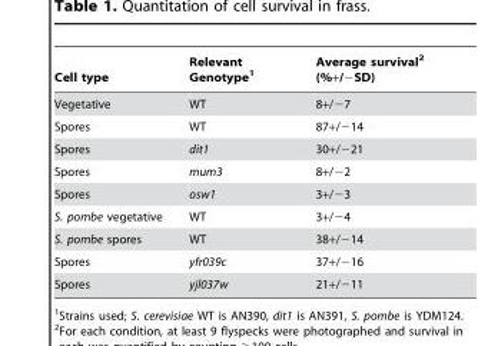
<table><thead><tr><td>Cell type</td><td>Relevant Genotype<sup>1</sup></td><td>Average survival<sup>2</sup> (%+/−SD)</td></tr></thead><tbody><tr><td>Vegetative</td><td>WT</td><td>8+/−7</td></tr><tr><td>Spores</td><td>WT</td><td>87+/−14</td></tr><tr><td>Spores</td><td>dit1</td><td>30+/−21</td></tr><tr><td>Spores</td><td>mum3</td><td>8+/−2</td></tr><tr><td>Spores</td><td>osw1</td><td>3+/−3</td></tr><tr><td>S. pombe vegetative</td><td>WT</td><td>3+/−4</td></tr><tr><td>S. pombe spores</td><td>WT</td><td>38+/−14</td></tr><tr><td>Spores</td><td>yfr039c</td><td>37+/−16</td></tr><tr><td>Spores</td><td>yjl037w</td><td>21+/−11</td></tr></tbody></table>